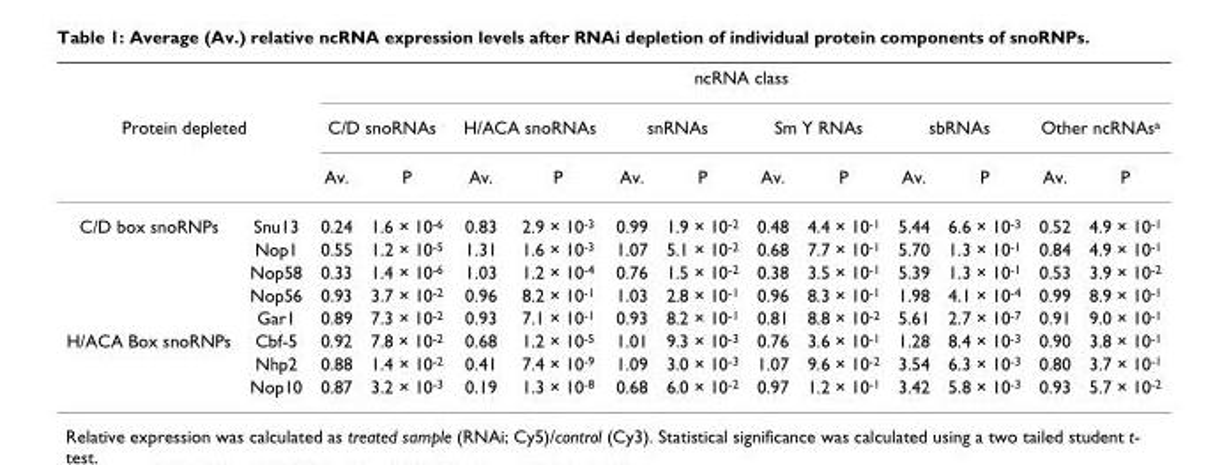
<table><thead><tr><td></td><td></td><td colspan="12">ncRNA class</td></tr><tr><td colspan="2">Protein depleted</td><td colspan="2">C/D snoRNAs</td><td colspan="2">H/ACA snoRNAs</td><td colspan="2">snRNAs</td><td colspan="2">Sm Y RNAs</td><td colspan="2">sbRNAs</td><td colspan="2">Other ncRNAs<sup>a</sup></td></tr><tr><td></td><td></td><td>Av.</td><td>P</td><td>Av.</td><td>P</td><td>Av.</td><td>P</td><td>Av.</td><td>P</td><td>Av.</td><td>P</td><td>Av.</td><td>P</td></tr></thead><tbody><tr><td rowspan="5">C/D box snoRNPs</td><td>Snu13</td><td>0.24</td><td>1.6 × 10<sup>-6</sup></td><td>0.83</td><td>2.9 × 10<sup>-3</sup></td><td>0.99</td><td>1.9 × 10<sup>-2</sup></td><td>0.48</td><td>4.4 × 10<sup>-1</sup></td><td>5.44</td><td>6.6 × 10<sup>-3</sup></td><td>0.52</td><td>4.9 × 10<sup>-1</sup></td></tr><tr><td>Nop1</td><td>0.55</td><td>1.2 × 10<sup>-5</sup></td><td>1.31</td><td>1.6 × 10<sup>-3</sup></td><td>1.07</td><td>5.1 × 10<sup>-2</sup></td><td>0.68</td><td>7.7 × 10<sup>-1</sup></td><td>5.70</td><td>1.3 × 10<sup>-1</sup></td><td>0.84</td><td>4.9 × 10<sup>-1</sup></td></tr><tr><td>Nop58</td><td>0.33</td><td>1.4 × 10<sup>-6</sup></td><td>1.03</td><td>1.2 × 10<sup>-4</sup></td><td>0.76</td><td>1.5 × 10<sup>-2</sup></td><td>0.38</td><td>3.5 × 10<sup>-1</sup></td><td>5.39</td><td>1.3 × 10<sup>-1</sup></td><td>0.53</td><td>3.9 × 10<sup>-2</sup></td></tr><tr><td>Nop56</td><td>0.93</td><td>3.7 × 10<sup>-2</sup></td><td>0.96</td><td>8.2 × 10<sup>-1</sup></td><td>1.03</td><td>2.8 × 10<sup>-1</sup></td><td>0.96</td><td>8.3 × 10<sup>-1</sup></td><td>1.98</td><td>4.1 × 10<sup>-4</sup></td><td>0.99</td><td>8.9 × 10<sup>-1</sup></td></tr><tr><td>Gar1</td><td>0.89</td><td>7.3 × 10<sup>-2</sup></td><td>0.93</td><td>7.1 × 10<sup>-1</sup></td><td>0.93</td><td>8.2 × 10<sup>-1</sup></td><td>0.81</td><td>8.8 × 10<sup>-2</sup></td><td>5.61</td><td>2.7 × 10<sup>-7</sup></td><td>0.91</td><td>9.0 × 10<sup>-1</sup></td></tr><tr><td rowspan="3">H/ACA Box snoRNPs</td><td>Cbf-5</td><td>0.92</td><td>7.8 × 10<sup>-2</sup></td><td>0.68</td><td>1.2 × 10<sup>-5</sup></td><td>1.01</td><td>9.3 × 10<sup>-3</sup></td><td>0.76</td><td>3.6 × 10<sup>-1</sup></td><td>1.28</td><td>8.4 × 10<sup>-3</sup></td><td>0.90</td><td>3.8 × 10<sup>-1</sup></td></tr><tr><td>Nhp2</td><td>0.88</td><td>1.4 × 10<sup>-2</sup></td><td>0.41</td><td>7.4 × 10<sup>-9</sup></td><td>1.09</td><td>3.0 × 10<sup>-3</sup></td><td>1.07</td><td>9.6 × 10<sup>-2</sup></td><td>3.54</td><td>6.3 × 10<sup>-3</sup></td><td>0.80</td><td>3.7 × 10<sup>-1</sup></td></tr><tr><td>Nop10</td><td>0.87</td><td>3.2 × 10<sup>-3</sup></td><td>0.19</td><td>1.3 × 10<sup>-8</sup></td><td>0.68</td><td>6.0 × 10<sup>-2</sup></td><td>0.97</td><td>1.2 × 10<sup>-1</sup></td><td>3.42</td><td>5.8 × 10<sup>-3</sup></td><td>0.93</td><td>5.7 × 10<sup>-2</sup></td></tr></tbody></table>